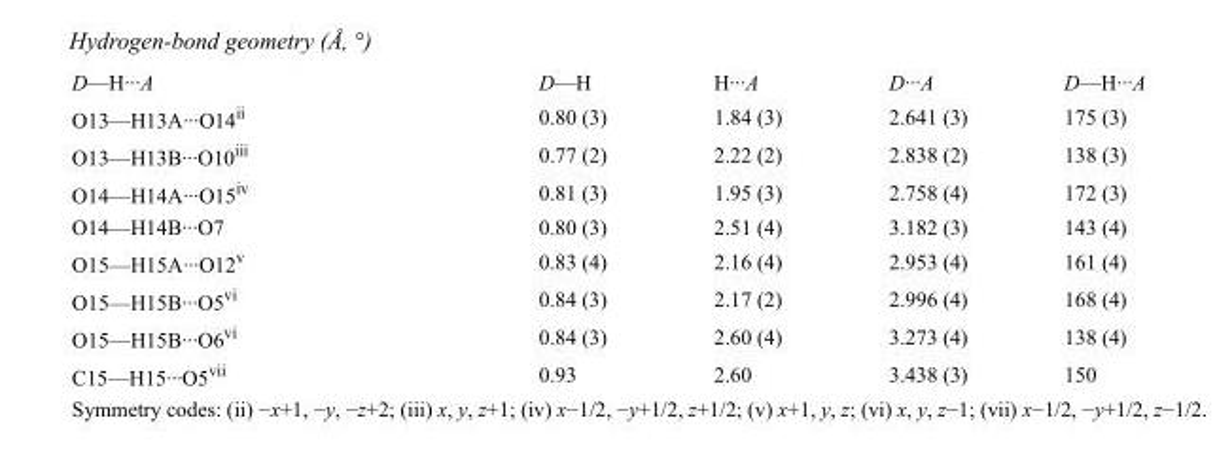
<table><tbody><tr><td>D—H···A</td><td>D—H</td><td>H···A</td><td>D···A</td><td>D—H···A</td></tr><tr><td>O13—H13A···O14<sup>ii</sup></td><td>0.80 (3)</td><td>1.84 (3)</td><td>2.641 (3)</td><td>175 (3)</td></tr><tr><td>O13—H13B···O10<sup>iii</sup></td><td>0.77 (2)</td><td>2.22 (2)</td><td>2.838 (2)</td><td>138 (3)</td></tr><tr><td>O14—H14A···O15<sup>iv</sup></td><td>0.81 (3)</td><td>1.95 (3)</td><td>2.758 (4)</td><td>172 (3)</td></tr><tr><td>O14—H14B···O7</td><td>0.80 (3)</td><td>2.51 (4)</td><td>3.182 (3)</td><td>143 (4)</td></tr><tr><td>O15—H15A···O12<sup>v</sup></td><td>0.83 (4)</td><td>2.16 (4)</td><td>2.953 (4)</td><td>161 (4)</td></tr><tr><td>O15—H15B···O5<sup>vi</sup></td><td>0.84 (3)</td><td>2.17 (2)</td><td>2.996 (4)</td><td>168 (4)</td></tr><tr><td>O15—H15B···O6<sup>vi</sup></td><td>0.84 (3)</td><td>2.60 (4)</td><td>3.273 (4)</td><td>138 (4)</td></tr><tr><td>C15—H15···O5<sup>vii</sup></td><td>0.93</td><td>2.60</td><td>3.438 (3)</td><td>150</td></tr></tbody></table>